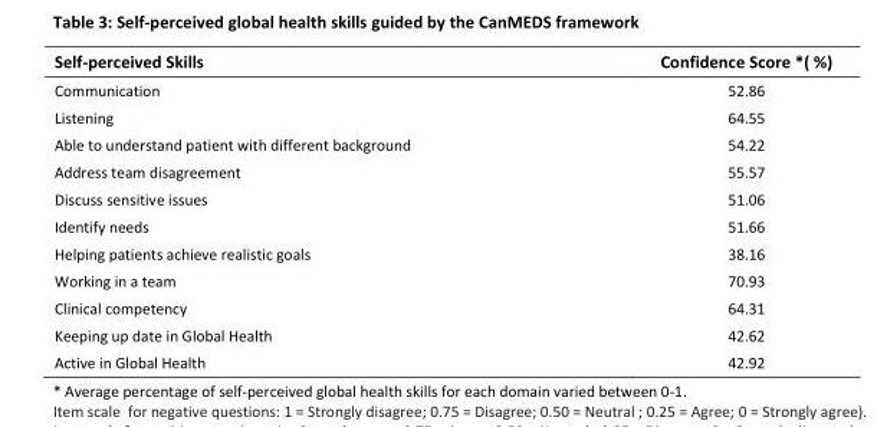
<table><thead><tr><td>Self-perceived Skills</td><td>Confidence Score *( %)</td></tr></thead><tbody><tr><td>Communication</td><td>52.86</td></tr><tr><td>Listening</td><td>64.55</td></tr><tr><td>Able to understand patient with different background</td><td>54.22</td></tr><tr><td>Address team disagreement</td><td>55.57</td></tr><tr><td>Discuss sensitive issues</td><td>51.06</td></tr><tr><td>Identify needs</td><td>51.66</td></tr><tr><td>Helping patients achieve realistic goals</td><td>38.16</td></tr><tr><td>Working in a team</td><td>70.93</td></tr><tr><td>Clinical competency</td><td>64.31</td></tr><tr><td>Keeping up date in Global Health</td><td>42.62</td></tr><tr><td>Active in Global Health</td><td>42.92</td></tr></tbody></table>